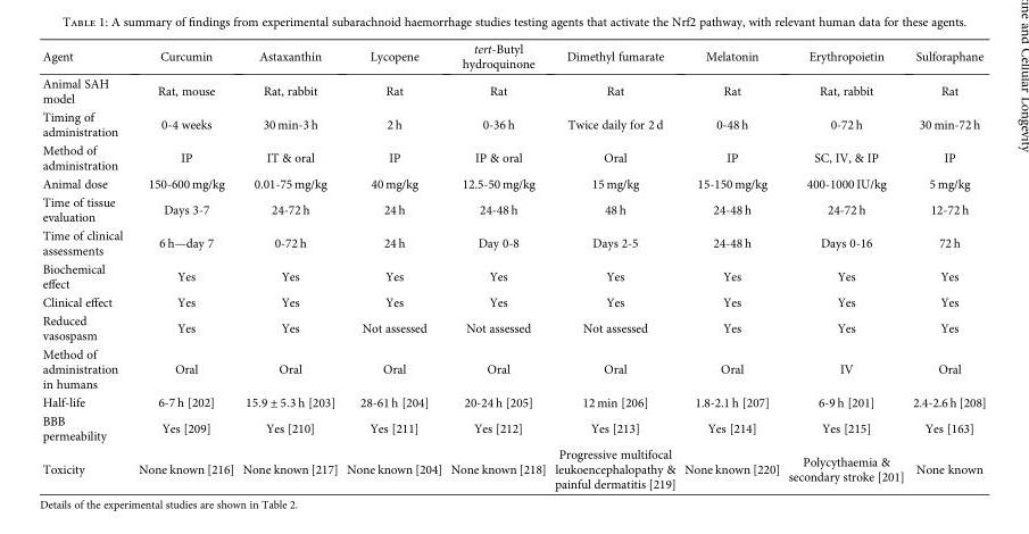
<table><thead><tr><td>Agent</td><td>Curcumin</td><td>Astaxanthin</td><td>Lycopene</td><td>tert-Butyl hydroquinone</td><td>Dimethyl fumarate</td><td>Melatonin</td><td>Erythropoietin</td><td>Sulforaphane</td></tr></thead><tbody><tr><td>Animal SAH model</td><td>Rat, mouse</td><td>Rat, rabbit</td><td>Rat</td><td>Rat</td><td>Rat</td><td>Rat</td><td>Rat, rabbit</td><td>Rat</td></tr><tr><td>Timing of administration</td><td>0-4 weeks</td><td>30 min-3 h</td><td>2 h</td><td>0-36 h</td><td>Twice daily for 2 d</td><td>0-48 h</td><td>0-72 h</td><td>30 min-72 h</td></tr><tr><td>Method of administration</td><td>IP</td><td>IT &amp; oral</td><td>IP</td><td>IP &amp; oral</td><td>Oral</td><td>IP</td><td>SC, IV, &amp; IP</td><td>IP</td></tr><tr><td>Animal dose</td><td>150-600 mg/kg</td><td>0.01-75 mg/kg</td><td>40 mg/kg</td><td>12.5-50 mg/kg</td><td>15 mg/kg</td><td>15-150 mg/kg</td><td>400-1000 IU/kg</td><td>5 mg/kg</td></tr><tr><td>Time of tissue evaluation</td><td>Days 3-7</td><td>24-72 h</td><td>24 h</td><td>24-48 h</td><td>48 h</td><td>24-48 h</td><td>24-72 h</td><td>12-72 h</td></tr><tr><td>Time of clinical assessments</td><td>6 h—day 7</td><td>0-72 h</td><td>24 h</td><td>Day 0-8</td><td>Days 2-5</td><td>24-48 h</td><td>Days 0-16</td><td>72 h</td></tr><tr><td>Biochemical effect</td><td>Yes</td><td>Yes</td><td>Yes</td><td>Yes</td><td>Yes</td><td>Yes</td><td>Yes</td><td>Yes</td></tr><tr><td>Clinical effect</td><td>Yes</td><td>Yes</td><td>Yes</td><td>Yes</td><td>Yes</td><td>Yes</td><td>Yes</td><td>Yes</td></tr><tr><td>Reduced vasospasm</td><td>Yes</td><td>Yes</td><td>Not assessed</td><td>Not assessed</td><td>Not assessed</td><td>Yes</td><td>Yes</td><td>Yes</td></tr><tr><td>Method of administration in humans</td><td>Oral</td><td>Oral</td><td>Oral</td><td>Oral</td><td>Oral</td><td>Oral</td><td>IV</td><td>Oral</td></tr><tr><td>Half-life</td><td>6-7 h [202]</td><td>15 9 ± 5 3 h [203]</td><td>28-61 h [204]</td><td>20-24 h [205]</td><td>12 min [206]</td><td>1.8-2.1 h [207]</td><td>6-9 h [201]</td><td>2.4-2.6 h [208]</td></tr><tr><td>BBB permeability</td><td>Yes [209]</td><td>Yes [210]</td><td>Yes [211]</td><td>Yes [212]</td><td>Yes [213]</td><td>Yes [214]</td><td>Yes [215]</td><td>Yes [163]</td></tr><tr><td>Toxicity</td><td>None known [216]</td><td>None known [217]</td><td>None known [204]</td><td>None known [218]</td><td>Progressive multifocal leukoencephalopathy &amp; painful dermatitis [219]</td><td>None known [220]</td><td>Polycythaemia &amp; secondary stroke [201]</td><td>None known</td></tr></tbody></table>